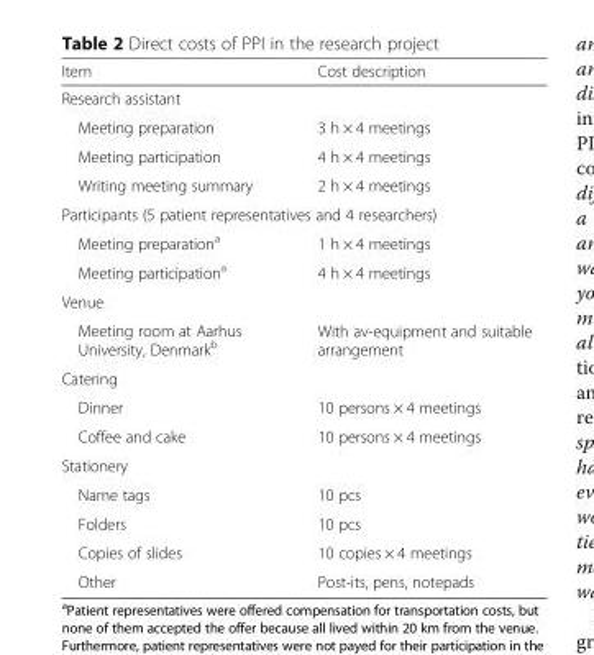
<table><thead><tr><td>Item</td><td>Cost description</td></tr></thead><tbody><tr><td colspan="2">Research assistant</td></tr><tr><td>Meeting preparation</td><td>3 h × 4 meetings</td></tr><tr><td>Meeting participation</td><td>4 h × 4 meetings</td></tr><tr><td>Writing meeting summary</td><td>2 h × 4 meetings</td></tr><tr><td colspan="2">Participants (5 patient representatives and 4 researchers)</td></tr><tr><td>Meeting preparation<sup>a</sup></td><td>1 h × 4 meetings</td></tr><tr><td>Meeting participation<sup>a</sup></td><td>4 h × 4 meetings</td></tr><tr><td colspan="2">Venue</td></tr><tr><td>Meeting room at Aarhus University, Denmark<sup>b</sup></td><td>With av-equipment and suitable arrangement</td></tr><tr><td colspan="2">Catering</td></tr><tr><td>Dinner</td><td>10 persons × 4 meetings</td></tr><tr><td>Coffee and cake</td><td>10 persons × 4 meetings</td></tr><tr><td colspan="2">Stationery</td></tr><tr><td>Name tags</td><td>10 pcs</td></tr><tr><td>Folders</td><td>10 pcs</td></tr><tr><td>Copies of slides</td><td>10 copies × 4 meetings</td></tr><tr><td>Other</td><td>Post-its, pens, notepads</td></tr></tbody></table>